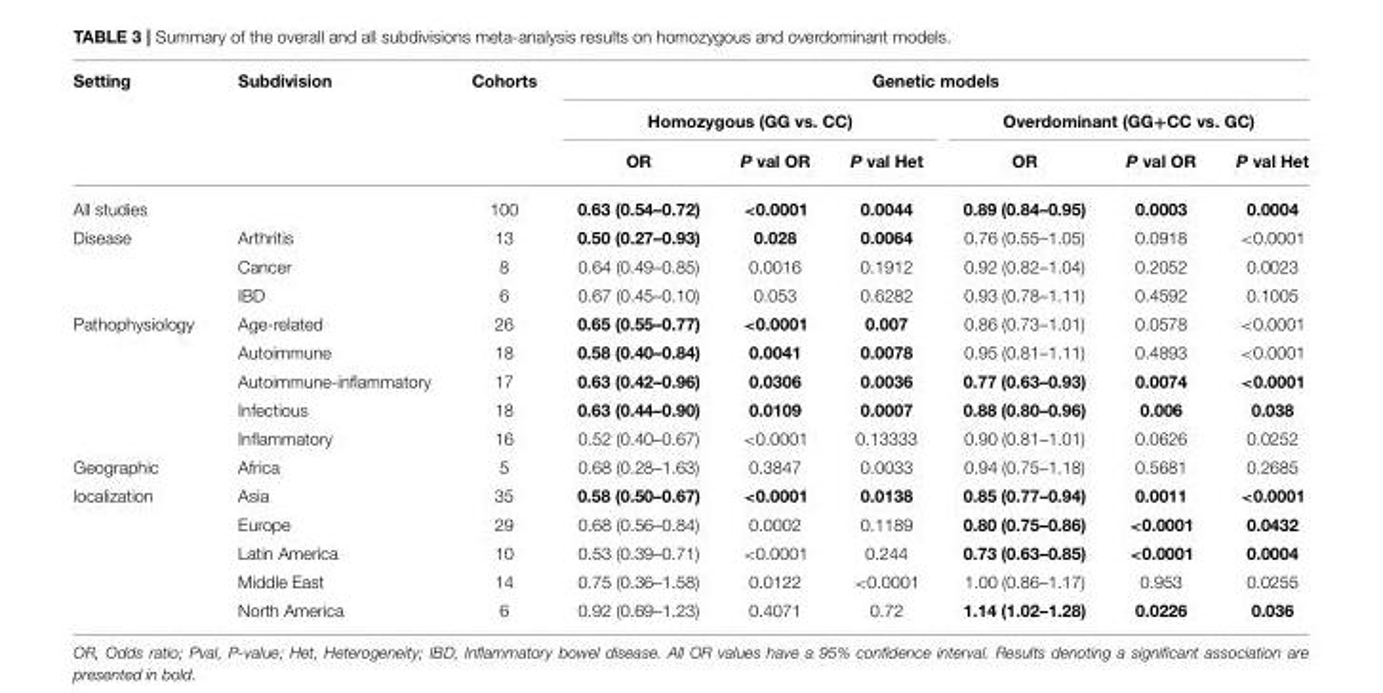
<table><thead><tr><td rowspan="3">Setting</td><td rowspan="3">Subdivision</td><td rowspan="3">Cohorts</td><td colspan="6">Genetic models</td></tr><tr><td colspan="3">Homozygous (GG vs. CC)</td><td colspan="3">Overdominant (GG+CC vs. GC)</td></tr><tr><td>OR</td><td>P val OR</td><td>P val Het</td><td>OR</td><td>P val OR</td><td>P val Het</td></tr></thead><tbody><tr><td>All studies</td><td></td><td>100</td><td>0.63 (0.54–0.72)</td><td>&lt;0.0001</td><td>0.0044</td><td>0.89 (0.84–0.95)</td><td>0.0003</td><td>0.0004</td></tr><tr><td rowspan="3">Disease</td><td>Arthritis</td><td>13</td><td>0.50 (0.27–0.93)</td><td>0.028</td><td>0.0064</td><td>0.76 (0.55–1.05)</td><td>0.0918</td><td>&lt;0.0001</td></tr><tr><td>Cancer</td><td>8</td><td>0.64 (0.49–0.85)</td><td>0.0016</td><td>0.1912</td><td>0.92 (0.82–1.04)</td><td>0.2052</td><td>0.0023</td></tr><tr><td>IBD</td><td>6</td><td>0.67 (0.45–0.10)</td><td>0.053</td><td>0.6282</td><td>0.93 (0.78–1.11)</td><td>0.4592</td><td>0.1005</td></tr><tr><td rowspan="5">Pathophysiology</td><td>Age-related</td><td>26</td><td>0.65 (0.55–0.77)</td><td>&lt;0.0001</td><td>0.007</td><td>0.86 (0.73–1.01)</td><td>0.0578</td><td>&lt;0.0001</td></tr><tr><td>Autoimmune</td><td>18</td><td>0.58 (0.40–0.84)</td><td>0.0041</td><td>0.0078</td><td>0.95 (0.81–1.11)</td><td>0.4893</td><td>&lt;0.0001</td></tr><tr><td>Autoimmune-inflammatory</td><td>17</td><td>0.63 (0.42–0.96)</td><td>0.0306</td><td>0.0036</td><td>0.77 (0.63–0.93)</td><td>0.0074</td><td>&lt;0.0001</td></tr><tr><td>Infectious</td><td>18</td><td>0.63 (0.44–0.90)</td><td>0.0109</td><td>0.0007</td><td>0.88 (0.80–0.96)</td><td>0.006</td><td>0.038</td></tr><tr><td>Inflammatory</td><td>16</td><td>0.52 (0.40–0.67)</td><td>&lt;0.0001</td><td>0.13333</td><td>0.90 (0.81–1.01)</td><td>0.0626</td><td>0.0252</td></tr><tr><td>Geographic</td><td>Africa</td><td>5</td><td>0.68 (0.28–1.63)</td><td>0.3847</td><td>0.0033</td><td>0.94 (0.75–1.18)</td><td>0.5681</td><td>0.2685</td></tr><tr><td rowspan="5">localization</td><td>Asia</td><td>35</td><td>0.58 (0.50–0.67)</td><td>&lt;0.0001</td><td>0.0138</td><td>0.85 (0.77–0.94)</td><td>0.0011</td><td>&lt;0.0001</td></tr><tr><td>Europe</td><td>29</td><td>0.68 (0.56–0.84)</td><td>0.0002</td><td>0.1189</td><td>0.80 (0.75–0.86)</td><td>&lt;0.0001</td><td>0.0432</td></tr><tr><td>Latin America</td><td>10</td><td>0.53 (0.39–0.71)</td><td>&lt;0.0001</td><td>0.244</td><td>0.73 (0.63–0.85)</td><td>&lt;0.0001</td><td>0.0004</td></tr><tr><td>Middle East</td><td>14</td><td>0.75 (0.36–1.58)</td><td>0.0122</td><td>&lt;0.0001</td><td>1.00 (0.86–1.17)</td><td>0.953</td><td>0.0255</td></tr><tr><td>North America</td><td>6</td><td>0.92 (0.69–1.23)</td><td>0.4071</td><td>0.72</td><td>1.14 (1.02–1.28)</td><td>0.0226</td><td>0.036</td></tr></tbody></table>